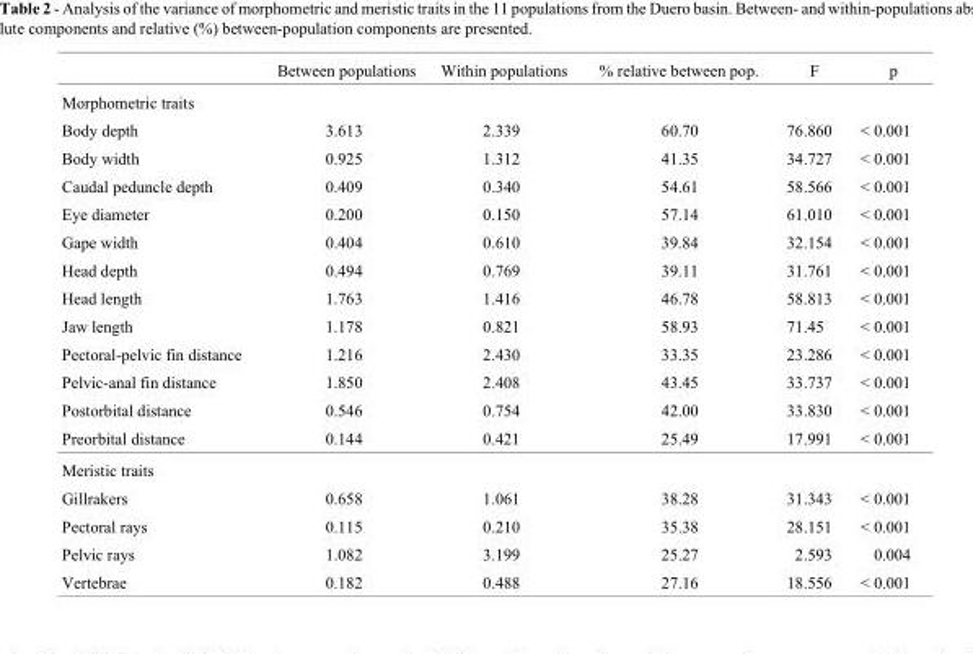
<table><thead><tr><td></td><td>Between populations</td><td>Within populations</td><td>% relative between pop.</td><td>F</td><td>p</td></tr></thead><tbody><tr><td colspan="6">Morphometric traits</td></tr><tr><td>Body depth</td><td>3.613</td><td>2.339</td><td>60.70</td><td>76.860</td><td>&lt; 0.001</td></tr><tr><td>Body width</td><td>0.925</td><td>1.312</td><td>41.35</td><td>34.727</td><td>&lt; 0.001</td></tr><tr><td>Caudal peduncle depth</td><td>0.409</td><td>0.340</td><td>54.61</td><td>58.566</td><td>&lt; 0.001</td></tr><tr><td>Eye diameter</td><td>0.200</td><td>0.150</td><td>57.14</td><td>61.010</td><td>&lt; 0.001</td></tr><tr><td>Gape width</td><td>0.404</td><td>0.610</td><td>39.84</td><td>32.154</td><td>&lt; 0.001</td></tr><tr><td>Head depth</td><td>0.494</td><td>0.769</td><td>39.11</td><td>31.761</td><td>&lt; 0.001</td></tr><tr><td>Head length</td><td>1.763</td><td>1.416</td><td>46.78</td><td>58.813</td><td>&lt; 0.001</td></tr><tr><td>Jaw length</td><td>1.178</td><td>0.821</td><td>58.93</td><td>71.45</td><td>&lt; 0.001</td></tr><tr><td>Pectoral-pelvic fin distance</td><td>1.216</td><td>2.430</td><td>33.35</td><td>23.286</td><td>&lt; 0.001</td></tr><tr><td>Pelvic-anal fin distance</td><td>1.850</td><td>2.408</td><td>43.45</td><td>33.737</td><td>&lt; 0.001</td></tr><tr><td>Postorbital distance</td><td>0.546</td><td>0.754</td><td>42.00</td><td>33.830</td><td>&lt; 0.001</td></tr><tr><td>Preorbital distance</td><td>0.144</td><td>0.421</td><td>25.49</td><td>17.991</td><td>&lt; 0.001</td></tr><tr><td colspan="6">Meristic traits</td></tr><tr><td>Gillrakers</td><td>0.658</td><td>1.061</td><td>38.28</td><td>31.343</td><td>&lt; 0.001</td></tr><tr><td>Pectoral rays</td><td>0.115</td><td>0.210</td><td>35.38</td><td>28.151</td><td>&lt; 0.001</td></tr><tr><td>Pelvic rays</td><td>1.082</td><td>3.199</td><td>25.27</td><td>2.593</td><td>0.004</td></tr><tr><td>Vertebrae</td><td>0.182</td><td>0.488</td><td>27.16</td><td>18.556</td><td>&lt; 0.001</td></tr></tbody></table>